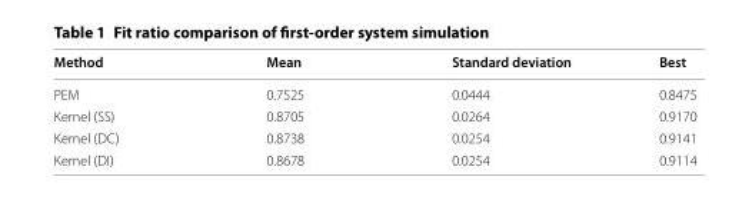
<table><thead><tr><td>Method</td><td>Mean</td><td>Standard deviation</td><td>Best</td></tr></thead><tbody><tr><td>PEM</td><td>0.7525</td><td>0.0444</td><td>0.8475</td></tr><tr><td>Kernel (SS)</td><td>0.8705</td><td>0.0264</td><td>0.9170</td></tr><tr><td>Kernel (DC)</td><td>0.8738</td><td>0.0254</td><td>0.9141</td></tr><tr><td>Kernel (DI)</td><td>0.8678</td><td>0.0254</td><td>0.9114</td></tr></tbody></table>